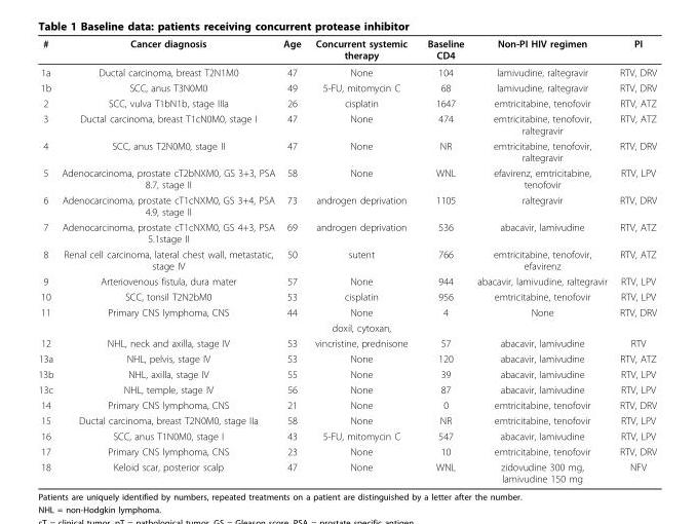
<table><thead><tr><td>#</td><td>Cancer diagnosis</td><td>Age</td><td>Concurrent systemic therapy</td><td>Baseline CD4</td><td>Non-PI HIV regimen</td><td>PI</td></tr></thead><tbody><tr><td>1a</td><td>Ductal carcinoma, breast T2N1M0</td><td>47</td><td>None</td><td>104</td><td>lamivudine, raltegravir</td><td>RTV, DRV</td></tr><tr><td>1b</td><td>SCC, anus T3N0M0</td><td>49</td><td>5-FU, mitomycin C</td><td>68</td><td>lamivudine, raltegravir</td><td>RTV, DRV</td></tr><tr><td>2</td><td>SCC, vulva T1bN1b, stage IIIa</td><td>26</td><td>cisplatin</td><td>1647</td><td>emtricitabine, tenofovir</td><td>RTV, ATZ</td></tr><tr><td>3</td><td>Ductal carcinoma, breast T1cN0M0, stage I</td><td>47</td><td>None</td><td>474</td><td>emtricitabine, tenofovir, raltegravir</td><td>RTV, ATZ</td></tr><tr><td>4</td><td>SCC, anus T2N0M0, stage II</td><td>47</td><td>None</td><td>NR</td><td>emtricitabine, tenofovir, raltegravir</td><td>RTV, DRV</td></tr><tr><td>5</td><td>Adenocarcinoma, prostate cT2bNXM0, GS 3+3, PSA 8.7, stage II</td><td>58</td><td>None</td><td>WNL</td><td>efavirenz, emtricitabine, tenofovir</td><td>RTV, LPV</td></tr><tr><td>6</td><td>Adenocarcinoma, prostate cT1cNXM0, GS 3+4, PSA 4.9, stage II</td><td>73</td><td>androgen deprivation</td><td>1105</td><td>raltegravir</td><td>RTV, DRV</td></tr><tr><td>7</td><td>Adenocarcinoma, prostate cT1cNXM0, GS 4+3, PSA 5.1stage II</td><td>69</td><td>androgen deprivation</td><td>536</td><td>abacavir, lamivudine</td><td>RTV, ATZ</td></tr><tr><td>8</td><td>Renal cell carcinoma, lateral chest wall, metastatic, stage IV</td><td>50</td><td>sutent</td><td>766</td><td>emtricitabine, tenofovir, efavirenz</td><td>RTV, ATZ</td></tr><tr><td>9</td><td>Arteriovenous fistula, dura mater</td><td>57</td><td>None</td><td>944</td><td>abacavir, lamivudine, raltegravir</td><td>RTV, LPV</td></tr><tr><td>10</td><td>SCC, tonsil T2N2bM0</td><td>53</td><td>cisplatin</td><td>956</td><td>emtricitabine, tenofovir</td><td>RTV, LPV</td></tr><tr><td rowspan="2">11</td><td>Primary CNS lymphoma, CNS</td><td>44</td><td>None</td><td>4</td><td>None</td><td>RTV, DRV</td></tr><tr><td></td><td></td><td>doxil, cytoxan,</td><td></td><td></td><td></td></tr><tr><td>12</td><td>NHL, neck and axilla, stage IV</td><td>53</td><td>vincristine, prednisone</td><td>57</td><td>abacavir, lamivudine</td><td>RTV</td></tr><tr><td>13a</td><td>NHL, pelvis, stage IV</td><td>53</td><td>None</td><td>120</td><td>abacavir, lamivudine</td><td>RTV, ATZ</td></tr><tr><td>13b</td><td>NHL, axilla, stage IV</td><td>55</td><td>None</td><td>39</td><td>abacavir, lamivudine</td><td>RTV, LPV</td></tr><tr><td>13c</td><td>NHL, temple, stage IV</td><td>56</td><td>None</td><td>87</td><td>abacavir, lamivudine</td><td>RTV, LPV</td></tr><tr><td>14</td><td>Primary CNS lymphoma, CNS</td><td>21</td><td>None</td><td>0</td><td>emtricitabine, tenofovir</td><td>RTV, DRV</td></tr><tr><td>15</td><td>Ductal carcinoma, breast T2N0M0, stage IIa</td><td>58</td><td>None</td><td>NR</td><td>emtricitabine, tenofovir</td><td>RTV, LPV</td></tr><tr><td>16</td><td>SCC, anus T1N0M0, stage I</td><td>43</td><td>5-FU, mitomycin C</td><td>547</td><td>abacavir, lamivudine</td><td>RTV, LPV</td></tr><tr><td>17</td><td>Primary CNS lymphoma, CNS</td><td>23</td><td>None</td><td>10</td><td>emtricitabine, tenofovir</td><td>RTV, DRV</td></tr><tr><td>18</td><td>Keloid scar, posterior scalp</td><td>47</td><td>None</td><td>WNL</td><td>zidovudine 300 mg, lamivudine 150 mg</td><td>NFV</td></tr></tbody></table>